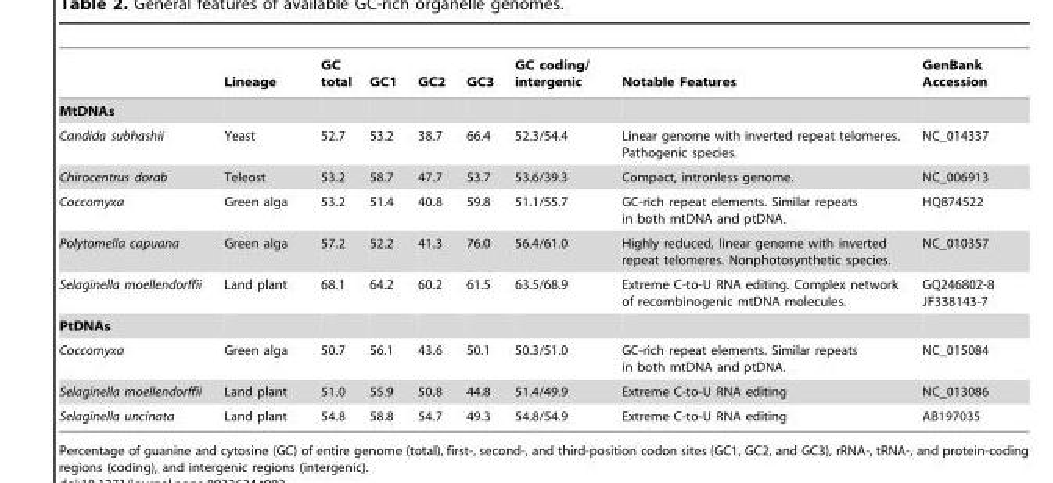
<table><thead><tr><td></td><td>Lineage</td><td>GC total</td><td>GC1</td><td>GC2</td><td>GC3</td><td>GC coding/ intergenic</td><td>Notable Features</td><td>GenBank Accession</td></tr></thead><tbody><tr><td colspan="9">MtDNAs</td></tr><tr><td>Candida subhashii</td><td>Yeast</td><td>52.7</td><td>53.2</td><td>38.7</td><td>66.4</td><td>52.3/54.4</td><td>Linear genome with inverted repeat telomeres. Pathogenic species.</td><td>NC_014337</td></tr><tr><td>Chirocentrus dorab</td><td>Teleost</td><td>53.2</td><td>58.7</td><td>47.7</td><td>53.7</td><td>53.6/39.3</td><td>Compact, intronless genome.</td><td>NC_006913</td></tr><tr><td>Coccomyxa</td><td>Green alga</td><td>53.2</td><td>51.4</td><td>40.8</td><td>59.8</td><td>51.1/55.7</td><td>GC-rich repeat elements. Similar repeats in both mtDNA and ptDNA.</td><td>HQ874522</td></tr><tr><td>Polytomella capuana</td><td>Green alga</td><td>57.2</td><td>52.2</td><td>41.3</td><td>76.0</td><td>56.4/61.0</td><td>Highly reduced, linear genome with inverted repeat telomeres. Nonphotosynthetic species.</td><td>NC_010357</td></tr><tr><td>Selaginella moellendorffii</td><td>Land plant</td><td>68.1</td><td>64.2</td><td>60.2</td><td>61.5</td><td>63.5/68.9</td><td>Extreme C-to-U RNA editing. Complex network of recombinogenic mtDNA molecules.</td><td>GQ246802-8 JF338143-7</td></tr><tr><td colspan="9">PtDNAs</td></tr><tr><td>Coccomyxa</td><td>Green alga</td><td>50.7</td><td>56.1</td><td>43.6</td><td>50.1</td><td>50.3/51.0</td><td>GC-rich repeat elements. Similar repeats in both mtDNA and ptDNA.</td><td>NC_015084</td></tr><tr><td>Selaginella moellendorffii</td><td>Land plant</td><td>51.0</td><td>55.9</td><td>50.8</td><td>44.8</td><td>51.4/49.9</td><td>Extreme C-to-U RNA editing</td><td>NC_013086</td></tr><tr><td>Selaginella uncinata</td><td>Land plant</td><td>54.8</td><td>58.8</td><td>54.7</td><td>49.3</td><td>54.8/54.9</td><td>Extreme C-to-U RNA editing</td><td>AB197035</td></tr></tbody></table>